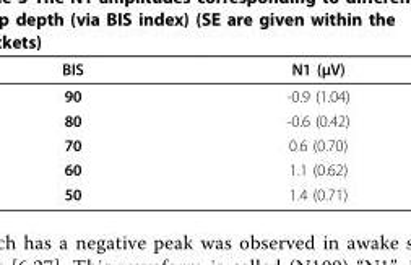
<table><thead><tr><td>BIS</td><td>N1 (µV)</td></tr></thead><tbody><tr><td>90</td><td>-0.9 (1.04)</td></tr><tr><td>80</td><td>-0.6 (0.42)</td></tr><tr><td>70</td><td>0.6 (0.70)</td></tr><tr><td>60</td><td>1.1 (0.62)</td></tr><tr><td>50</td><td>1.4 (0.71)</td></tr></tbody></table>